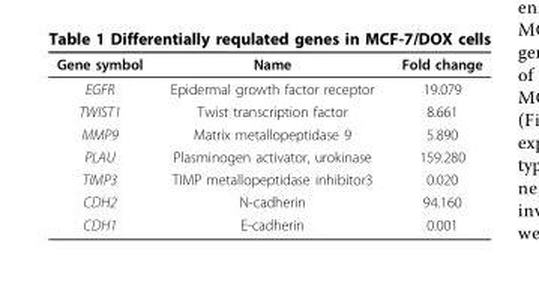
<table><thead><tr><td>Gene symbol</td><td>Name</td><td>Fold change</td></tr></thead><tbody><tr><td>EGFR</td><td>Epidermal growth factor receptor</td><td>19.079</td></tr><tr><td>TWIST1</td><td>Twist transcription factor</td><td>8.661</td></tr><tr><td>MMP9</td><td>Matrix metallopeptidase 9</td><td>5.890</td></tr><tr><td>PLAU</td><td>Plasminogen activator, urokinase</td><td>159.280</td></tr><tr><td>TIMP3</td><td>TIMP metallopeptidase inhibitor3</td><td>0.020</td></tr><tr><td>CDH2</td><td>N-cadherin</td><td>94.160</td></tr><tr><td>CDH1</td><td>E-cadherin</td><td>0.001</td></tr></tbody></table>